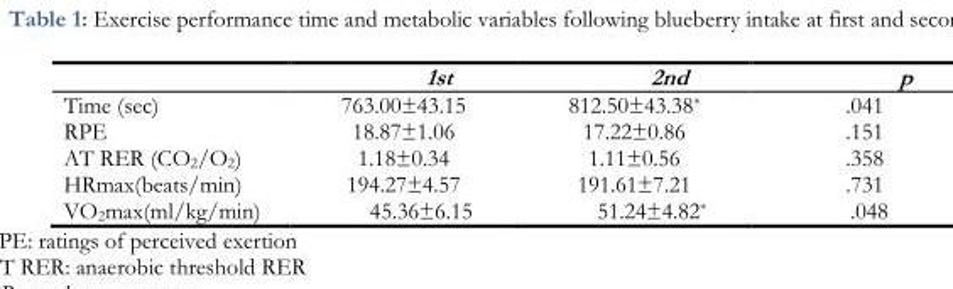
<table><thead><tr><td></td><td>1st</td><td>2nd</td><td></td></tr></thead><tbody><tr><td>Time (sec)</td><td>763.00±43.15</td><td>812.50±43.38*</td><td>.041</td></tr><tr><td>RPE</td><td>18.87±1.06</td><td>17.22±0.86</td><td>.151</td></tr><tr><td>AT RER (CO<sub>2</sub>/O<sub>2</sub>)</td><td>1.18±0.34</td><td>1.11±0.56</td><td>.358</td></tr><tr><td>HRmax(beats/min)</td><td>194.27±4.57</td><td>191.61±7.21</td><td>.731</td></tr><tr><td>VO<sub>2</sub>max(ml/kg/min)</td><td>45.36±6.15</td><td>51.24±4.82*</td><td>.048</td></tr></tbody></table>